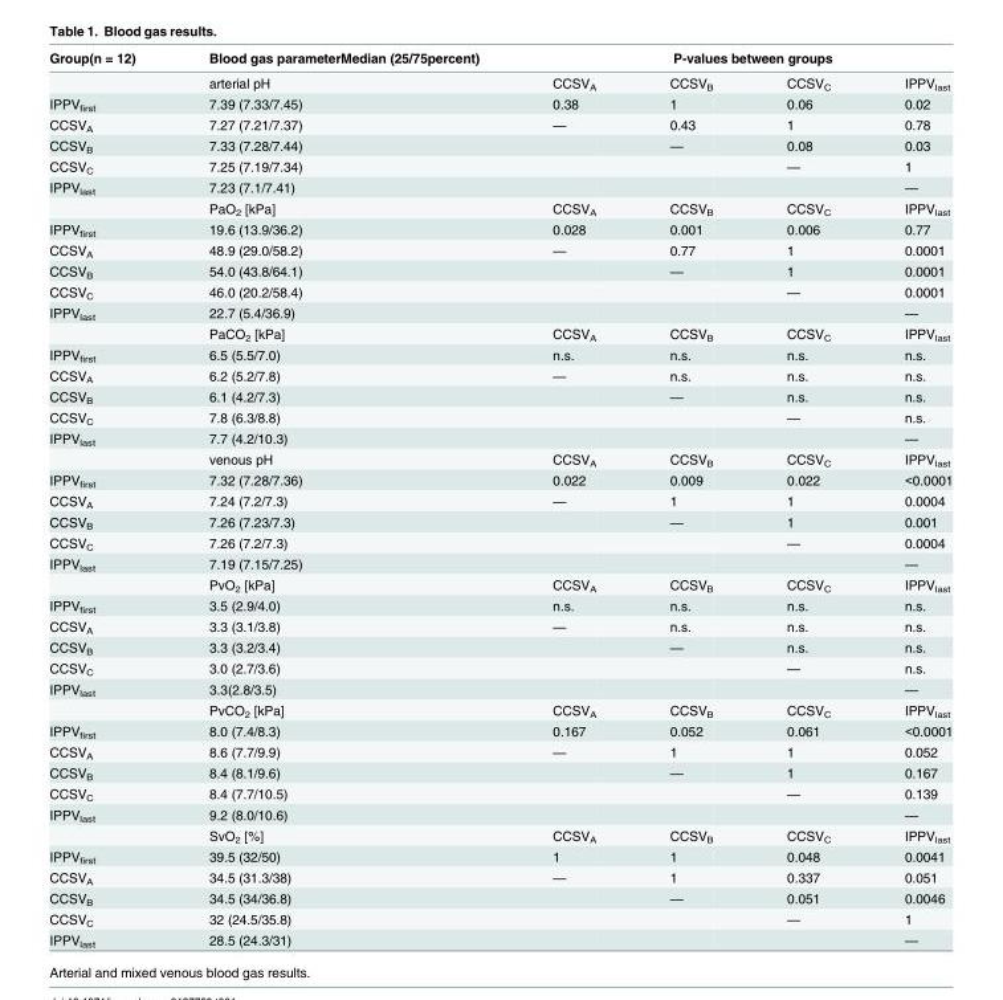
<table><thead><tr><td rowspan="2">Group(n = 12)</td><td rowspan="2">Blood gas parameterMedian (25/75percent) arterial pH</td><td colspan="4">P-values between groups</td></tr><tr><td>CCSV<sub>A</sub></td><td>CCSV<sub>B</sub></td><td>CCSV<sub>C</sub></td><td>IPPV<sub>last</sub></td></tr></thead><tbody><tr><td>IPPV<sub>first</sub></td><td>7.39 (7.33/7.45)</td><td>0.38</td><td>1</td><td>0.06</td><td>0.02</td></tr><tr><td>CCSV<sub>A</sub></td><td>7.27 (7.21/7.37)</td><td>—</td><td>0.43</td><td>1</td><td>0.78</td></tr><tr><td>CCSV<sub>B</sub></td><td>7.33 (7.28/7.44)</td><td></td><td>—</td><td>0.08</td><td>0.03</td></tr><tr><td>CCSV<sub>C</sub></td><td>7.25 (7.19/7.34)</td><td></td><td></td><td>—</td><td>1</td></tr><tr><td rowspan="2">IPPV<sub>last</sub></td><td>7.23 (7.1/7.41)</td><td></td><td></td><td></td><td>—</td></tr><tr><td>PaO<sub>2</sub> [kPa]</td><td>CCSV<sub>A</sub></td><td>CCSV<sub>B</sub></td><td>CCSV<sub>C</sub></td><td>IPPV<sub>last</sub></td></tr><tr><td>IPPV<sub>first</sub></td><td>19.6 (13.9/36.2)</td><td>0.028</td><td>0.001</td><td>0.006</td><td>0.77</td></tr><tr><td>CCSV<sub>A</sub></td><td>48.9 (29.0/58.2)</td><td>—</td><td>0.77</td><td>1</td><td>0.0001</td></tr><tr><td>CCSV<sub>B</sub></td><td>54.0 (43.8/64.1)</td><td></td><td>—</td><td>1</td><td>0.0001</td></tr><tr><td>CCSV<sub>C</sub></td><td>46.0 (20.2/58.4)</td><td></td><td></td><td>—</td><td>0.0001</td></tr><tr><td rowspan="2">IPPV<sub>last</sub></td><td>22.7 (5.4/36.9)</td><td></td><td></td><td></td><td>—</td></tr><tr><td>PaCO<sub>2</sub> [kPa]</td><td>CCSV<sub>A</sub></td><td>CCSV<sub>B</sub></td><td>CCSV<sub>C</sub></td><td>IPPV<sub>last</sub></td></tr><tr><td>IPPV<sub>first</sub></td><td>6.5 (5.5/7.0)</td><td>n.s.</td><td>n.s.</td><td>n.s.</td><td>n.s.</td></tr><tr><td>CCSV<sub>A</sub></td><td>6.2 (5.2/7.8)</td><td>—</td><td>n.s.</td><td>n.s.</td><td>n.s.</td></tr><tr><td>CCSV<sub>B</sub></td><td>6.1 (4.2/7.3)</td><td></td><td>—</td><td>n.s.</td><td>n.s.</td></tr><tr><td>CCSV<sub>C</sub></td><td>7.8 (6.3/8.8)</td><td></td><td></td><td>—</td><td>n.s.</td></tr><tr><td rowspan="2">IPPV<sub>last</sub></td><td>7.7 (4.2/10.3)</td><td></td><td></td><td></td><td>—</td></tr><tr><td>venous pH</td><td>CCSV<sub>A</sub></td><td>CCSV<sub>B</sub></td><td>CCSV<sub>C</sub></td><td>IPPV<sub>last</sub></td></tr><tr><td>IPPV<sub>first</sub></td><td>7.32 (7.28/7.36)</td><td>0.022</td><td>0.009</td><td>0.022</td><td>&lt;0.0001</td></tr><tr><td>CCSV<sub>A</sub></td><td>7.24 (7.2/7.3)</td><td>—</td><td>1</td><td>1</td><td>0.0004</td></tr><tr><td>CCSV<sub>B</sub></td><td>7.26 (7.23/7.3)</td><td></td><td>—</td><td>1</td><td>0.001</td></tr><tr><td>CCSV<sub>C</sub></td><td>7.26 (7.2/7.3)</td><td></td><td></td><td>—</td><td>0.0004</td></tr><tr><td rowspan="2">IPPV<sub>last</sub></td><td>7.19 (7.15/7.25)</td><td></td><td></td><td></td><td>—</td></tr><tr><td>PvO<sub>2</sub> [kPa]</td><td>CCSV<sub>A</sub></td><td>CCSV<sub>B</sub></td><td>CCSV<sub>C</sub></td><td>IPPV<sub>last</sub></td></tr><tr><td>IPPV<sub>first</sub></td><td>3.5 (2.9/4.0)</td><td>n.s.</td><td>n.s.</td><td>n.s.</td><td>n.s.</td></tr><tr><td>CCSV<sub>A</sub></td><td>3.3 (3.1/3.8)</td><td>—</td><td>n.s.</td><td>n.s.</td><td>n.s.</td></tr><tr><td>CCSV<sub>B</sub></td><td>3.3 (3.2/3.4)</td><td></td><td>—</td><td>n.s.</td><td>n.s.</td></tr><tr><td>CCSV<sub>C</sub></td><td>3.0 (2.7/3.6)</td><td></td><td></td><td>—</td><td>n.s.</td></tr><tr><td rowspan="2">IPPV<sub>last</sub></td><td>3.3(2.8/3.5)</td><td></td><td></td><td></td><td>—</td></tr><tr><td>PvCO<sub>2</sub> [kPa]</td><td>CCSV<sub>A</sub></td><td>CCSV<sub>B</sub></td><td>CCSV<sub>C</sub></td><td>IPPV<sub>last</sub></td></tr><tr><td>IPPV<sub>first</sub></td><td>8.0 (7.4/8.3)</td><td>0.167</td><td>0.052</td><td>0.061</td><td>&lt;0.0001</td></tr><tr><td>CCSV<sub>A</sub></td><td>8.6 (7.7/9.9)</td><td>—</td><td>1</td><td>1</td><td>0.052</td></tr><tr><td>CCSV<sub>B</sub></td><td>8.4 (8.1/9.6)</td><td></td><td>—</td><td>1</td><td>0.167</td></tr><tr><td>CCSV<sub>C</sub></td><td>8.4 (7.7/10.5)</td><td></td><td></td><td>—</td><td>0.139</td></tr><tr><td rowspan="2">IPPV<sub>last</sub></td><td>9.2 (8.0/10.6)</td><td></td><td></td><td></td><td>—</td></tr><tr><td>SvO<sub>2</sub> [%]</td><td>CCSV<sub>A</sub></td><td>CCSV<sub>B</sub></td><td>CCSV<sub>C</sub></td><td>IPPV<sub>last</sub></td></tr><tr><td>IPPV<sub>first</sub></td><td>39.5 (32/50)</td><td>1</td><td>1</td><td>0.048</td><td>0.0041</td></tr><tr><td>CCSV<sub>A</sub></td><td>34.5 (31.3/38)</td><td>—</td><td>1</td><td>0.337</td><td>0.051</td></tr><tr><td>CCSV<sub>B</sub></td><td>34.5 (34/36.8)</td><td></td><td>—</td><td>0.051</td><td>0.0046</td></tr><tr><td>CCSV<sub>C</sub></td><td>32 (24.5/35.8)</td><td></td><td></td><td>—</td><td>1</td></tr><tr><td>IPPV<sub>last</sub></td><td>28.5 (24.3/31)</td><td></td><td></td><td></td><td>—</td></tr></tbody></table>